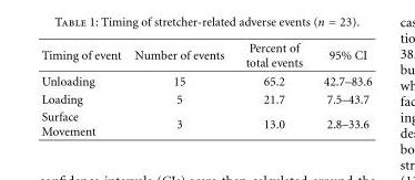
<table><thead><tr><td>Timing of event</td><td>Number of events</td><td>Percent of total events</td><td>95% CI</td></tr></thead><tbody><tr><td>Unloading</td><td>15</td><td>65.2</td><td>42.7–83.6</td></tr><tr><td>Loading</td><td>5</td><td>21.7</td><td>7.5–43.7</td></tr><tr><td>Surface Movement</td><td>3</td><td>13.0</td><td>2.8–33.6</td></tr></tbody></table>